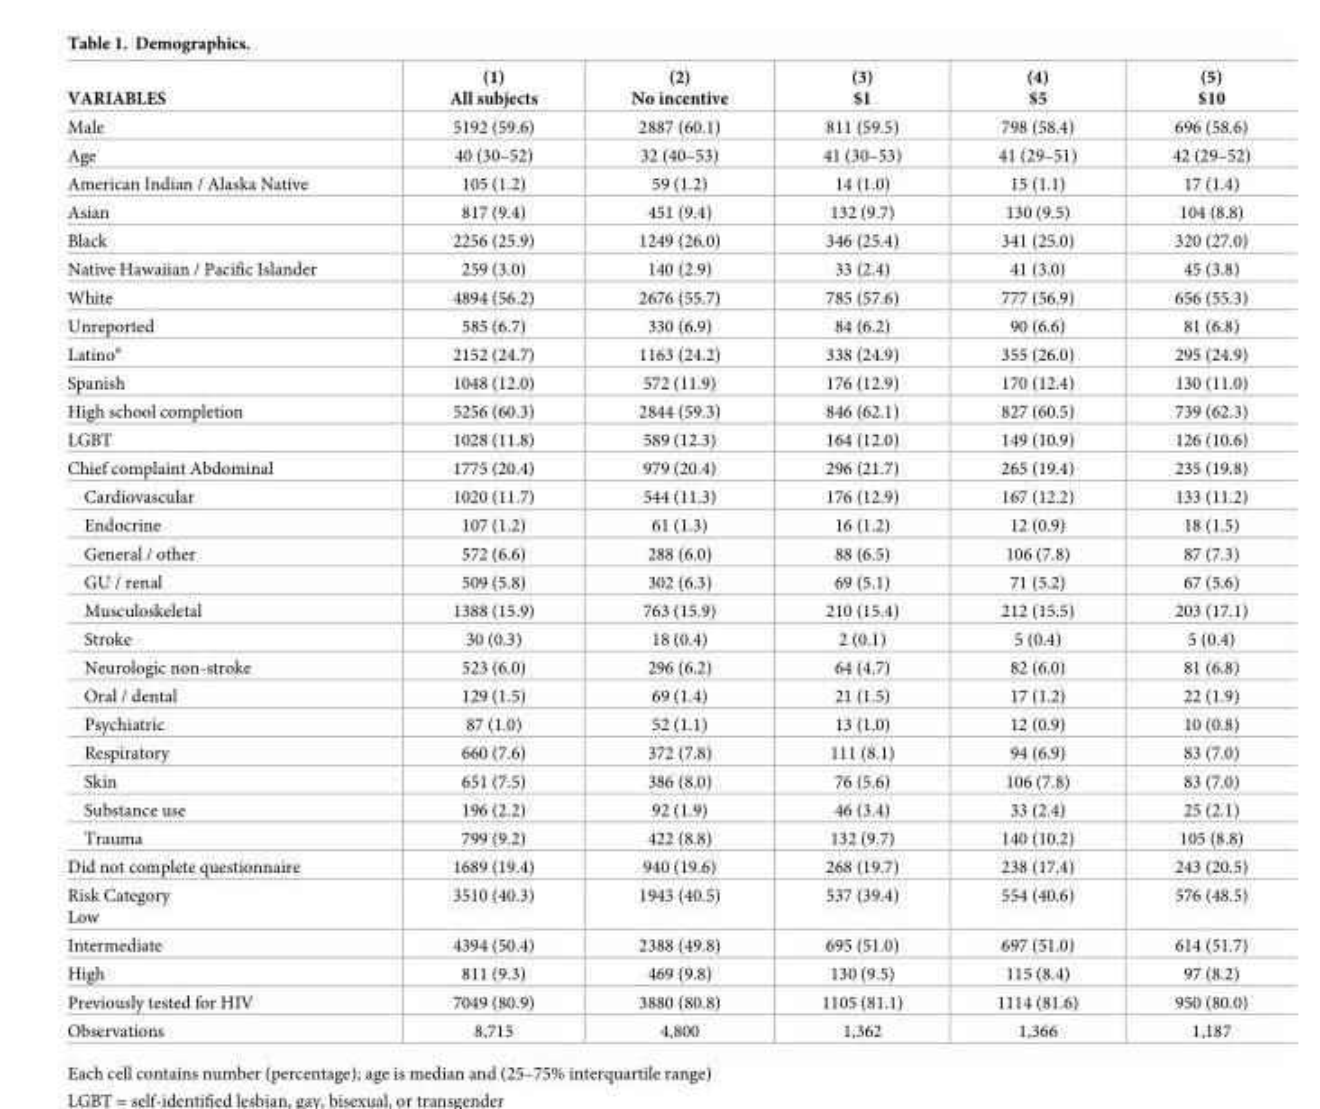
<table><thead><tr><td>VARIABLES</td><td>(1) All subjects</td><td>(2) No incentive</td><td>(3) $1</td><td>(4) $5</td><td>(5) $10</td></tr></thead><tbody><tr><td>Male</td><td>5192 (59.6)</td><td>2887 (60.1)</td><td>811 (59.5)</td><td>798 (58.4)</td><td>696 (58.6)</td></tr><tr><td>Age</td><td>40 (30–52)</td><td>32 (40–53)</td><td>41 (30–53)</td><td>41 (29–51)</td><td>42 (29–52)</td></tr><tr><td>American Indian / Alaska Native</td><td>105 (1.2)</td><td>59 (1.2)</td><td>14 (1.0)</td><td>15 (1.1)</td><td>17 (1.4)</td></tr><tr><td>Asian</td><td>817 (9.4)</td><td>451 (9.4)</td><td>132 (9.7)</td><td>130 (9.5)</td><td>104 (8.8)</td></tr><tr><td>Black</td><td>2256 (25.9)</td><td>1249 (26.0)</td><td>346 (25.4)</td><td>341 (25.0)</td><td>320 (27.0)</td></tr><tr><td>Native Hawaiian / Pacific Islander</td><td>259 (3.0)</td><td>140 (2.9)</td><td>33 (2.4)</td><td>41 (3.0)</td><td>45 (3.8)</td></tr><tr><td>White</td><td>4894 (56.2)</td><td>2676 (55.7)</td><td>785 (57.6)</td><td>777 (56.9)</td><td>656 (55.3)</td></tr><tr><td>Unreported</td><td>585 (6.7)</td><td>330 (6.9)</td><td>84 (6.2)</td><td>90 (6.6)</td><td>81 (6.8)</td></tr><tr><td>Latino<sup>a</sup></td><td>2152 (24.7)</td><td>1163 (24.2)</td><td>338 (24.9)</td><td>355 (26.0)</td><td>295 (24.9)</td></tr><tr><td>Spanish</td><td>1048 (12.0)</td><td>572 (11.9)</td><td>176 (12.9)</td><td>170 (12.4)</td><td>130 (11.0)</td></tr><tr><td>High school completion</td><td>5256 (60.3)</td><td>2844 (59.3)</td><td>846 (62.1)</td><td>827 (60.5)</td><td>739 (62.3)</td></tr><tr><td>LGBT</td><td>1028 (11.8)</td><td>589 (12.3)</td><td>164 (12.0)</td><td>149 (10.9)</td><td>126 (10.6)</td></tr><tr><td>Chief complaint Abdominal</td><td>1775 (20.4)</td><td>979 (20.4)</td><td>296 (21.7)</td><td>265 (19.4)</td><td>235 (19.8)</td></tr><tr><td>Cardiovascular</td><td>1020 (11.7)</td><td>544 (11.3)</td><td>176 (12.9)</td><td>167 (12.2)</td><td>133 (11.2)</td></tr><tr><td>Endocrine</td><td>107 (1.2)</td><td>61 (1.3)</td><td>16 (1.2)</td><td>12 (0.9)</td><td>18 (1.5)</td></tr><tr><td>General / other</td><td>572 (6.6)</td><td>288 (6.0)</td><td>88 (6.5)</td><td>106 (7.8)</td><td>87 (7.3)</td></tr><tr><td>GU / renal</td><td>509 (5.8)</td><td>302 (6.3)</td><td>69 (5.1)</td><td>71 (5.2)</td><td>67 (5.6)</td></tr><tr><td>Musculoskeletal</td><td>1388 (15.9)</td><td>763 (15.9)</td><td>210 (15.4)</td><td>212 (15.5)</td><td>203 (17.1)</td></tr><tr><td>Stroke</td><td>30 (0.3)</td><td>18 (0.4)</td><td>2 (0.1)</td><td>5 (0.4)</td><td>5 (0.4)</td></tr><tr><td>Neurologic non-stroke</td><td>523 (6.0)</td><td>296 (6.2)</td><td>64 (4.7)</td><td>82 (6.0)</td><td>81 (6.8)</td></tr><tr><td>Oral / dental</td><td>129 (1.5)</td><td>69 (1.4)</td><td>21 (1.5)</td><td>17 (1.2)</td><td>22 (1.9)</td></tr><tr><td>Psychiatric</td><td>87 (1.0)</td><td>52 (1.1)</td><td>13 (1.0)</td><td>12 (0.9)</td><td>10 (0.8)</td></tr><tr><td>Respiratory</td><td>660 (7.6)</td><td>372 (7.8)</td><td>111 (8.1)</td><td>94 (6.9)</td><td>83 (7.0)</td></tr><tr><td>Skin</td><td>651 (7.5)</td><td>386 (8.0)</td><td>76 (5.6)</td><td>106 (7.8)</td><td>83 (7.0)</td></tr><tr><td>Substance use</td><td>196 (2.2)</td><td>92 (1.9)</td><td>46 (3.4)</td><td>33 (2.4)</td><td>25 (2.1)</td></tr><tr><td>Trauma</td><td>799 (9.2)</td><td>422 (8.8)</td><td>132 (9.7)</td><td>140 (10.2)</td><td>105 (8.8)</td></tr><tr><td>Did not complete questionnaire</td><td>1689 (19.4)</td><td>940 (19.6)</td><td>268 (19.7)</td><td>238 (17.4)</td><td>243 (20.5)</td></tr><tr><td>Risk Category Low</td><td>3510 (40.3)</td><td>1943 (40.5)</td><td>537 (39.4)</td><td>554 (40.6)</td><td>576 (48.5)</td></tr><tr><td>Intermediate</td><td>4394 (50.4)</td><td>2388 (49.8)</td><td>695 (51.0)</td><td>697 (51.0)</td><td>614 (51.7)</td></tr><tr><td>High</td><td>811 (9.3)</td><td>469 (9.8)</td><td>130 (9.5)</td><td>115 (8.4)</td><td>97 (8.2)</td></tr><tr><td>Previously tested for HIV</td><td>7049 (80.9)</td><td>3880 (80.8)</td><td>1105 (81.1)</td><td>1114 (81.6)</td><td>950 (80.0)</td></tr><tr><td>Observations</td><td>8,715</td><td>4,800</td><td>1,362</td><td>1,366</td><td>1,187</td></tr></tbody></table>